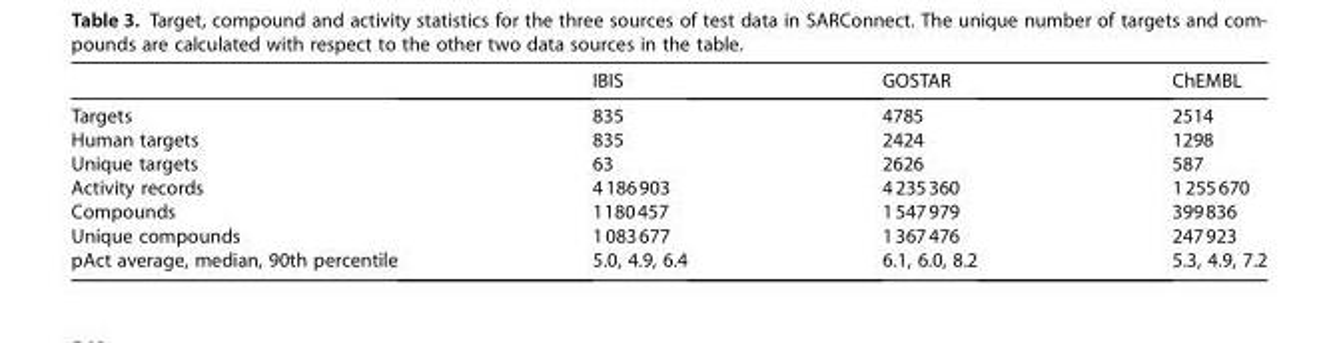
<table><thead><tr><td></td><td>IBIS</td><td>GOSTAR</td><td>ChEMBL</td></tr></thead><tbody><tr><td>Targets</td><td>835</td><td>4785</td><td>2514</td></tr><tr><td>Human targets</td><td>835</td><td>2424</td><td>1298</td></tr><tr><td>Unique targets</td><td>63</td><td>2626</td><td>587</td></tr><tr><td>Activity records</td><td>4186903</td><td>4235360</td><td>1255670</td></tr><tr><td>Compounds</td><td>1180457</td><td>1547979</td><td>399836</td></tr><tr><td>Unique compounds</td><td>1083677</td><td>1367476</td><td>247923</td></tr><tr><td>pAct average, median, 90th percentile</td><td>5.0, 4.9, 6.4</td><td>6.1, 6.0, 8.2</td><td>5.3, 4.9, 7.2</td></tr></tbody></table>